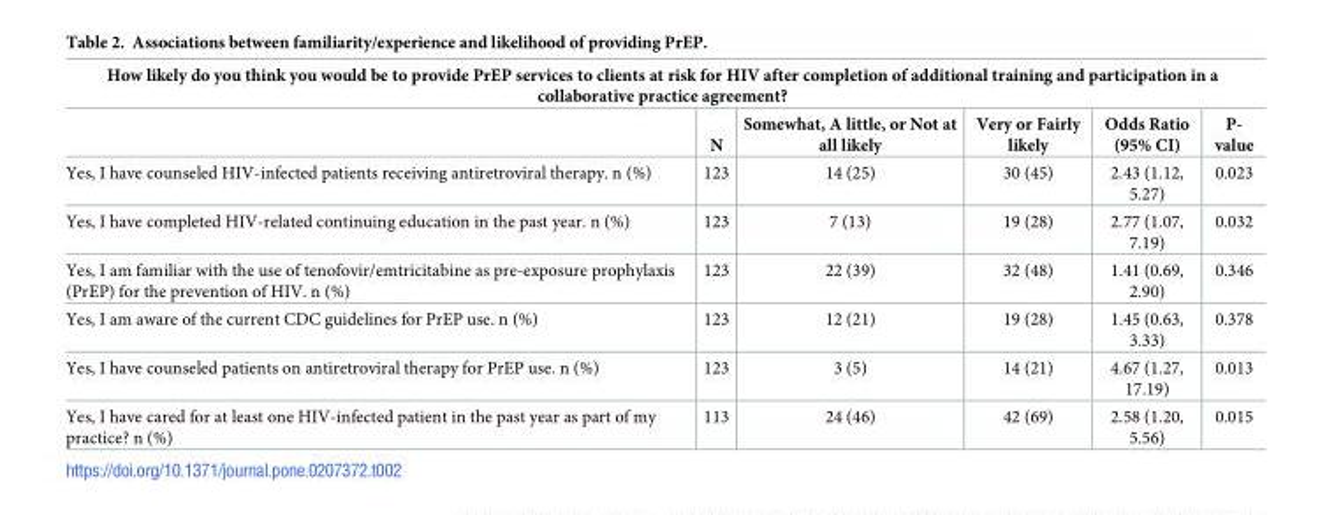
<table><thead><tr><td colspan="6">How likely do you think you would be to provide PrEP services to clients at risk for HIV after completion of additional training and participation in a collaborative practice agreement?</td></tr><tr><td></td><td>N</td><td>Somewhat, A little, or Not at all likely</td><td>Very or Fairly likely</td><td>Odds Ratio (95% CI)</td><td>P- value</td></tr></thead><tbody><tr><td>Yes, I have counseled HIV-infected patients receiving antiretroviral therapy. n (%)</td><td>123</td><td>14 (25)</td><td>30 (45)</td><td>2.43 (1.12, 5.27)</td><td>0.023</td></tr><tr><td>Yes, I have completed HIV-related continuing education in the past year. n (%)</td><td>123</td><td>7 (13)</td><td>19 (28)</td><td>2.77 (1.07, 7.19)</td><td>0.032</td></tr><tr><td>Yes, I am familiar with the use of tenofovir/emtricitabine as pre-exposure prophylaxis (PrEP) for the prevention of HIV. n (%)</td><td>123</td><td>22 (39)</td><td>32 (48)</td><td>1.41 (0.69, 2.90)</td><td>0.346</td></tr><tr><td>Yes, I am aware of the current CDC guidelines for PrEP use. n (%)</td><td>123</td><td>12 (21)</td><td>19 (28)</td><td>1.45 (0.63, 3.33)</td><td>0.378</td></tr><tr><td>Yes, I have counseled patients on antiretroviral therapy for PrEP use. n (%)</td><td>123</td><td>3 (5)</td><td>14 (21)</td><td>4.67 (1.27, 17.19)</td><td>0.013</td></tr><tr><td>Yes, I have cared for at least one HIV-infected patient in the past year as part of my practice? n (%)</td><td>113</td><td>24 (46)</td><td>42 (69)</td><td>2.58 (1.20, 5.56)</td><td>0.015</td></tr></tbody></table>